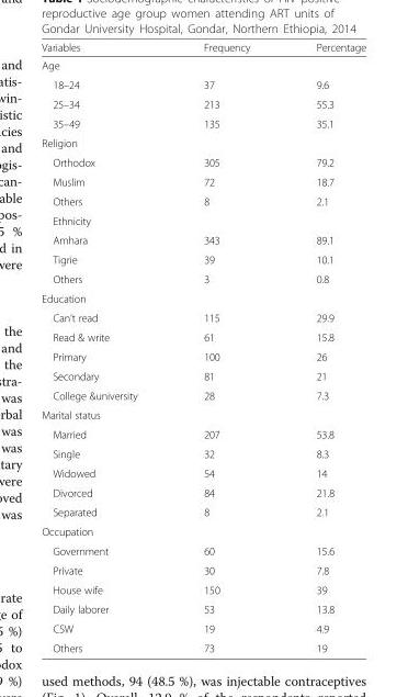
<table><thead><tr><td>Variables</td><td>Frequency</td><td>Percentage</td></tr></thead><tbody><tr><td colspan="3">Age</td></tr><tr><td>18–24</td><td>37</td><td>9.6</td></tr><tr><td>25–34</td><td>213</td><td>55.3</td></tr><tr><td>35–49</td><td>135</td><td>35.1</td></tr><tr><td colspan="3">Religion</td></tr><tr><td>Orthodox</td><td>305</td><td>79.2</td></tr><tr><td>Muslim</td><td>72</td><td>18.7</td></tr><tr><td>Others</td><td>8</td><td>2.1</td></tr><tr><td colspan="3">Ethnicity</td></tr><tr><td>Amhara</td><td>343</td><td>89.1</td></tr><tr><td>Tigrie</td><td>39</td><td>10.1</td></tr><tr><td>Others</td><td>3</td><td>0.8</td></tr><tr><td colspan="3">Education</td></tr><tr><td>Can’t read</td><td>115</td><td>29.9</td></tr><tr><td>Read &amp; write</td><td>61</td><td>15.8</td></tr><tr><td>Primary</td><td>100</td><td>26</td></tr><tr><td>Secondary</td><td>81</td><td>21</td></tr><tr><td>College &amp;university</td><td>28</td><td>7.3</td></tr><tr><td colspan="3">Marital status</td></tr><tr><td>Married</td><td>207</td><td>53.8</td></tr><tr><td>Single</td><td>32</td><td>8.3</td></tr><tr><td>Widowed</td><td>54</td><td>14</td></tr><tr><td>Divorced</td><td>84</td><td>21.8</td></tr><tr><td>Separated</td><td>8</td><td>2.1</td></tr><tr><td colspan="3">Occupation</td></tr><tr><td>Government</td><td>60</td><td>15.6</td></tr><tr><td>Private</td><td>30</td><td>7.8</td></tr><tr><td>House wife</td><td>150</td><td>39</td></tr><tr><td>Daily laborer</td><td>53</td><td>13.8</td></tr><tr><td>CSW</td><td>19</td><td>4.9</td></tr><tr><td>Others</td><td>73</td><td>19</td></tr></tbody></table>